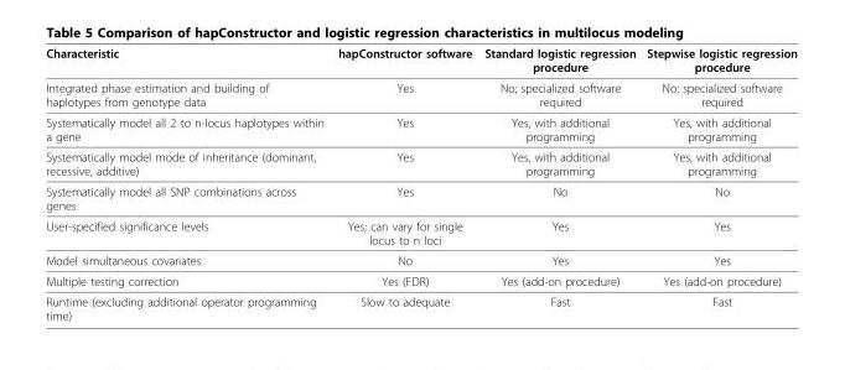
<table><thead><tr><td>Characteristic</td><td>hapConstructor software</td><td>Standard logistic regression procedure</td><td>Stepwise logistic regression procedure</td></tr></thead><tbody><tr><td>Integrated phase estimation and building of haplotypes from genotype data</td><td>Yes</td><td>No; specialized software required</td><td>No; specialized software required</td></tr><tr><td>Systematically model all 2 to n-locus haplotypes within a gene</td><td>Yes</td><td>Yes, with additional programming</td><td>Yes, with additional programming</td></tr><tr><td>Systematically model mode of inheritance (dominant, recessive, additive)</td><td>Yes</td><td>Yes, with additional programming</td><td>Yes, with additional programming</td></tr><tr><td>Systematically model all SNP combinations across genes</td><td>Yes</td><td>No</td><td>No</td></tr><tr><td>User-specified significance levels</td><td>Yes; can vary for single locus to n loci</td><td>Yes</td><td>Yes</td></tr><tr><td>Model simultaneous covariates</td><td>No</td><td>Yes</td><td>Yes</td></tr><tr><td>Multiple testing correction</td><td>Yes (FDR)</td><td>Yes (add-on procedure)</td><td>Yes (add-on procedure)</td></tr><tr><td>Runtime (excluding additional operator programming time)</td><td>Slow to adequate</td><td>Fast</td><td>Fast</td></tr></tbody></table>